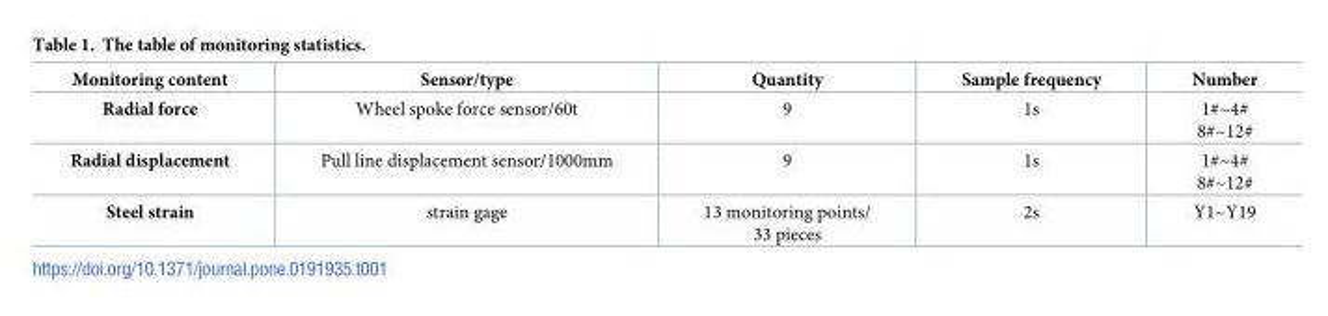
<table><thead><tr><td>Monitoring content</td><td>Sensor/type</td><td>Quantity</td><td>Sample frequency</td><td>Number</td></tr></thead><tbody><tr><td>Radial force</td><td>Wheel spoke force sensor/60t</td><td>9</td><td>1s</td><td>1#~4# 8#~12#</td></tr><tr><td>Radial displacement</td><td>Pull line displacement sensor/1000mm</td><td>9</td><td>1s</td><td>1#~4# 8#~12#</td></tr><tr><td>Steel strain</td><td>strain gage</td><td>13 monitoring points/ 33 pieces</td><td>2s</td><td>Y1~Y19</td></tr></tbody></table>